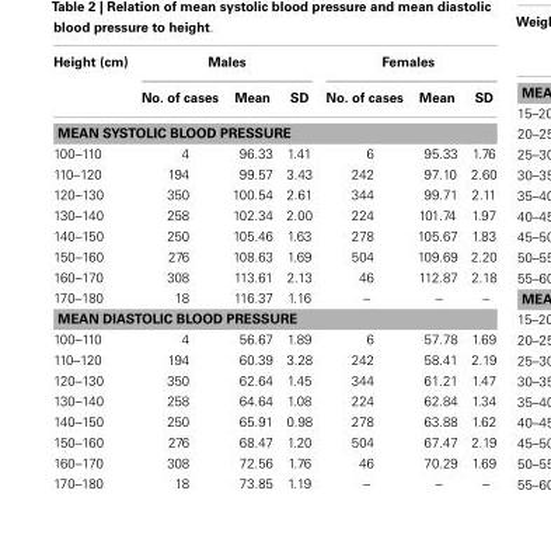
<table><thead><tr><td rowspan="2">Height (cm)</td><td colspan="3">Males</td><td colspan="3">Females</td></tr><tr><td>No. of cases</td><td>Mean</td><td>SD</td><td>No. of cases</td><td>Mean</td><td>SD</td></tr></thead><tbody><tr><td colspan="7">MEAN SYSTOLIC BLOOD PRESSURE</td></tr><tr><td>100–110</td><td>4</td><td>96.33</td><td>1.41</td><td>6</td><td>95.33</td><td>1.76</td></tr><tr><td>110–120</td><td>194</td><td>99.57</td><td>3.43</td><td>242</td><td>97.10</td><td>2.60</td></tr><tr><td>120–130</td><td>350</td><td>100.54</td><td>2.61</td><td>344</td><td>99.71</td><td>2.11</td></tr><tr><td>130–140</td><td>258</td><td>102.34</td><td>2.00</td><td>224</td><td>101.74</td><td>1.97</td></tr><tr><td>140–150</td><td>250</td><td>105.46</td><td>1.63</td><td>278</td><td>105.67</td><td>1.83</td></tr><tr><td>150–160</td><td>276</td><td>108.63</td><td>1.69</td><td>504</td><td>109.69</td><td>2.20</td></tr><tr><td>160–170</td><td>308</td><td>113.61</td><td>2.13</td><td>46</td><td>112.87</td><td>2.18</td></tr><tr><td>170–180</td><td>18</td><td>116.37</td><td>1.16</td><td>–</td><td>–</td><td>–</td></tr><tr><td colspan="7">MEAN DIASTOLIC BLOOD PRESSURE</td></tr><tr><td>100–110</td><td>4</td><td>56.67</td><td>1.89</td><td>6</td><td>57.78</td><td>1.69</td></tr><tr><td>110–120</td><td>194</td><td>60.39</td><td>3.28</td><td>242</td><td>58.41</td><td>2.19</td></tr><tr><td>120–130</td><td>350</td><td>62.64</td><td>1.45</td><td>344</td><td>61.21</td><td>1.47</td></tr><tr><td>130–140</td><td>258</td><td>64.64</td><td>1.08</td><td>224</td><td>62.84</td><td>1.34</td></tr><tr><td>140–150</td><td>250</td><td>65.91</td><td>0.98</td><td>278</td><td>63.88</td><td>1.62</td></tr><tr><td>150–160</td><td>276</td><td>68.47</td><td>1.20</td><td>504</td><td>67.47</td><td>2.19</td></tr><tr><td>160–170</td><td>308</td><td>72.56</td><td>1.76</td><td>46</td><td>70.29</td><td>1.69</td></tr><tr><td>170–180</td><td>18</td><td>73.85</td><td>1.19</td><td>–</td><td>–</td><td>–</td></tr></tbody></table>